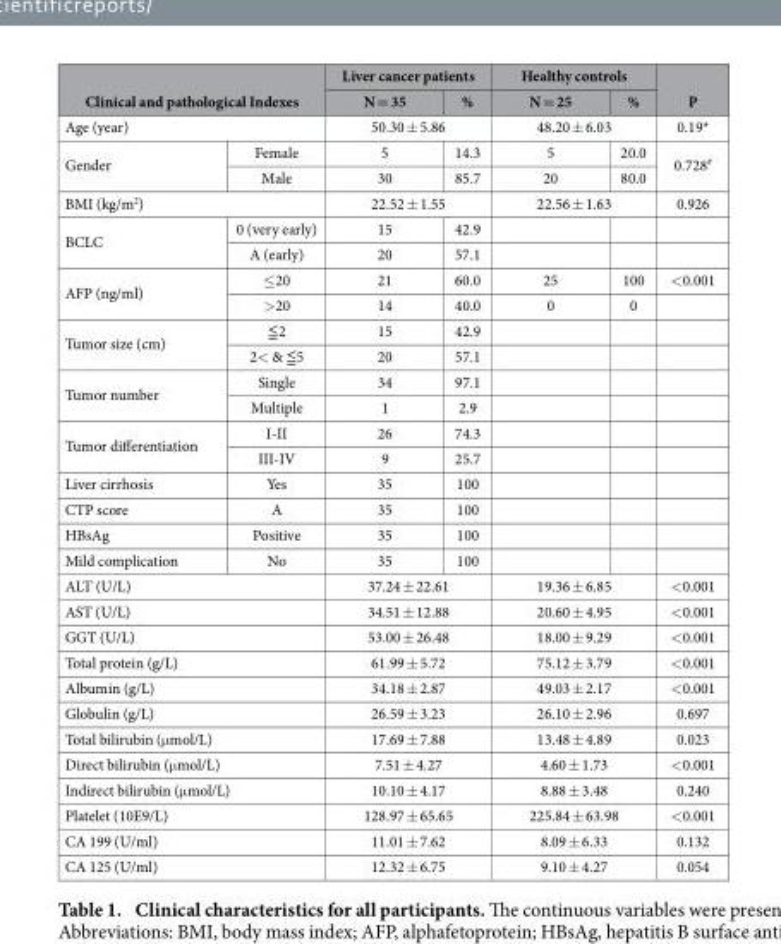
<table><thead><tr><td></td><td></td><td colspan="2">Liver cancer patients</td><td colspan="2">Healthy controls</td><td rowspan="2">P</td></tr><tr><td colspan="2">Clinical and pathological Indexes</td><td>N = 35</td><td>%</td><td>N = 25</td><td>%</td></tr></thead><tbody><tr><td colspan="2">Age (year)</td><td colspan="2">50.30 ± 5.86</td><td colspan="2">48.20 ± 6.03</td><td>0.19*</td></tr><tr><td rowspan="2">Gender</td><td>Female</td><td>5</td><td>14.3</td><td>5</td><td>20.0</td><td rowspan="2">0.728#</td></tr><tr><td>Male</td><td>30</td><td>85.7</td><td>20</td><td>80.0</td></tr><tr><td colspan="2">BMI (kg/m<sup>2</sup>)</td><td colspan="2">22.52 ± 1.55</td><td colspan="2">22.56 ± 1.63</td><td>0.926</td></tr><tr><td rowspan="2">BCLC</td><td>0 (very early)</td><td>15</td><td>42.9</td><td></td><td></td><td></td></tr><tr><td>A (early)</td><td>20</td><td>57.1</td><td></td><td></td><td></td></tr><tr><td rowspan="2">AFP (ng/ml)</td><td>≤ 20</td><td>21</td><td>60.0</td><td>25</td><td>100</td><td>&lt; 0.001</td></tr><tr><td>&gt; 20</td><td>14</td><td>40.0</td><td>0</td><td>0</td><td></td></tr><tr><td rowspan="2">Tumor size (cm)</td><td>≦ 2</td><td>15</td><td>42.9</td><td></td><td></td><td></td></tr><tr><td>2&lt; &amp; ≦ 5</td><td>20</td><td>57.1</td><td></td><td></td><td></td></tr><tr><td rowspan="2">Tumor number</td><td>Single</td><td>34</td><td>97.1</td><td></td><td></td><td></td></tr><tr><td>Multiple</td><td>1</td><td>2.9</td><td></td><td></td><td></td></tr><tr><td rowspan="2">Tumor differentiation</td><td>I-II</td><td>26</td><td>74.3</td><td></td><td></td><td></td></tr><tr><td>III-IV</td><td>9</td><td>25.7</td><td></td><td></td><td></td></tr><tr><td>Liver cirrhosis</td><td>Yes</td><td>35</td><td>100</td><td></td><td></td><td></td></tr><tr><td>CTP score</td><td>A</td><td>35</td><td>100</td><td></td><td></td><td></td></tr><tr><td>HBsAg</td><td>Positive</td><td>35</td><td>100</td><td></td><td></td><td></td></tr><tr><td>Mild complication</td><td>No</td><td>35</td><td>100</td><td></td><td></td><td></td></tr><tr><td colspan="2">ALT (U/L)</td><td colspan="2">37.24 ± 22.61</td><td colspan="2">19.36 ± 6.85</td><td>&lt; 0.001</td></tr><tr><td colspan="2">AST (U/L)</td><td colspan="2">34.51 ± 12.88</td><td colspan="2">20.60 ± 4.95</td><td>&lt; 0.001</td></tr><tr><td colspan="2">GGT (U/L)</td><td colspan="2">53.00 ± 26.48</td><td colspan="2">18.00 ± 9.29</td><td>&lt; 0.001</td></tr><tr><td colspan="2">Total protein (g/L)</td><td colspan="2">61.99 ± 5.72</td><td colspan="2">75.12 ± 3.79</td><td>&lt; 0.001</td></tr><tr><td colspan="2">Albumin (g/L)</td><td colspan="2">34.18 ± 2.87</td><td colspan="2">49.03 ± 2.17</td><td>&lt; 0.001</td></tr><tr><td colspan="2">Globulin (g/L)</td><td colspan="2">26.59 ± 3.23</td><td colspan="2">26.10 ± 2.96</td><td>0.697</td></tr><tr><td colspan="2">Total bilirubin (μ mol/L)</td><td colspan="2">17.69 ± 7.88</td><td colspan="2">13.48 ± 4.89</td><td>0.023</td></tr><tr><td colspan="2">Direct bilirubin (μ mol/L)</td><td colspan="2">7.51 ± 4.27</td><td colspan="2">4.60 ± 1.73</td><td>&lt; 0.001</td></tr><tr><td colspan="2">Indirect bilirubin (μ mol/L)</td><td colspan="2">10.10 ± 4.17</td><td colspan="2">8.88 ± 3.48</td><td>0.240</td></tr><tr><td colspan="2">Platelet (10E9/L)</td><td colspan="2">128.97 ± 65.65</td><td colspan="2">225.84 ± 63.98</td><td>&lt; 0.001</td></tr><tr><td colspan="2">CA 199 (U/ml)</td><td colspan="2">11.01 ± 7.62</td><td colspan="2">8.09 ± 6.33</td><td>0.132</td></tr><tr><td colspan="2">CA 125 (U/ml)</td><td colspan="2">12.32 ± 6.75</td><td colspan="2">9.10 ± 4.27</td><td>0.054</td></tr></tbody></table>